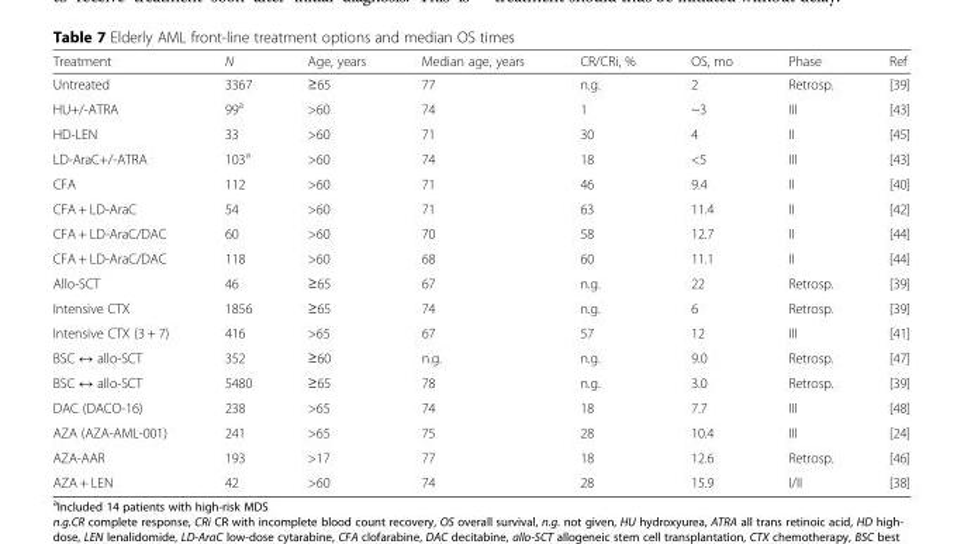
<table><thead><tr><td>Treatment</td><td>N</td><td>Age, years</td><td>Median age, years</td><td>CR/CRi, %</td><td>OS, mo</td><td>Phase</td><td>Ref</td></tr></thead><tbody><tr><td>Untreated</td><td>3367</td><td>≥65</td><td>77</td><td>n.g.</td><td>2</td><td>Retrosp.</td><td>[39]</td></tr><tr><td>HU+/-ATRA</td><td>99<sup>a</sup></td><td>&gt;60</td><td>74</td><td>1</td><td>~3</td><td>III</td><td>[43]</td></tr><tr><td>HD-LEN</td><td>33</td><td>&gt;60</td><td>71</td><td>30</td><td>4</td><td>II</td><td>[45]</td></tr><tr><td>LD-AraC+/-ATRA</td><td>103<sup>a</sup></td><td>&gt;60</td><td>74</td><td>18</td><td>&lt;5</td><td>III</td><td>[43]</td></tr><tr><td>CFA</td><td>112</td><td>&gt;60</td><td>71</td><td>46</td><td>9.4</td><td>II</td><td>[40]</td></tr><tr><td>CFA + LD-AraC</td><td>54</td><td>&gt;60</td><td>71</td><td>63</td><td>11.4</td><td>II</td><td>[42]</td></tr><tr><td>CFA + LD-AraC/DAC</td><td>60</td><td>&gt;60</td><td>70</td><td>58</td><td>12.7</td><td>II</td><td>[44]</td></tr><tr><td>CFA + LD-AraC/DAC</td><td>118</td><td>&gt;60</td><td>68</td><td>60</td><td>11.1</td><td>II</td><td>[44]</td></tr><tr><td>Allo-SCT</td><td>46</td><td>≥65</td><td>67</td><td>n.g.</td><td>22</td><td>Retrosp.</td><td>[39]</td></tr><tr><td>Intensive CTX</td><td>1856</td><td>≥65</td><td>74</td><td>n.g.</td><td>6</td><td>Retrosp.</td><td>[39]</td></tr><tr><td>Intensive CTX (3 + 7)</td><td>416</td><td>&gt;65</td><td>67</td><td>57</td><td>12</td><td>III</td><td>[41]</td></tr><tr><td>BSC ↔ allo-SCT</td><td>352</td><td>≥60</td><td>n.g.</td><td>n.g.</td><td>9.0</td><td>Retrosp.</td><td>[47]</td></tr><tr><td>BSC ↔ allo-SCT</td><td>5480</td><td>≥65</td><td>78</td><td>n.g.</td><td>3.0</td><td>Retrosp.</td><td>[39]</td></tr><tr><td>DAC (DACO-16)</td><td>238</td><td>&gt;65</td><td>74</td><td>18</td><td>7.7</td><td>III</td><td>[48]</td></tr><tr><td>AZA (AZA-AML-001)</td><td>241</td><td>&gt;65</td><td>75</td><td>28</td><td>10.4</td><td>III</td><td>[24]</td></tr><tr><td>AZA-AAR</td><td>193</td><td>&gt;17</td><td>77</td><td>18</td><td>12.6</td><td>Retrosp.</td><td>[46]</td></tr><tr><td>AZA + LEN</td><td>42</td><td>&gt;60</td><td>74</td><td>28</td><td>15.9</td><td>I/II</td><td>[38]</td></tr></tbody></table>